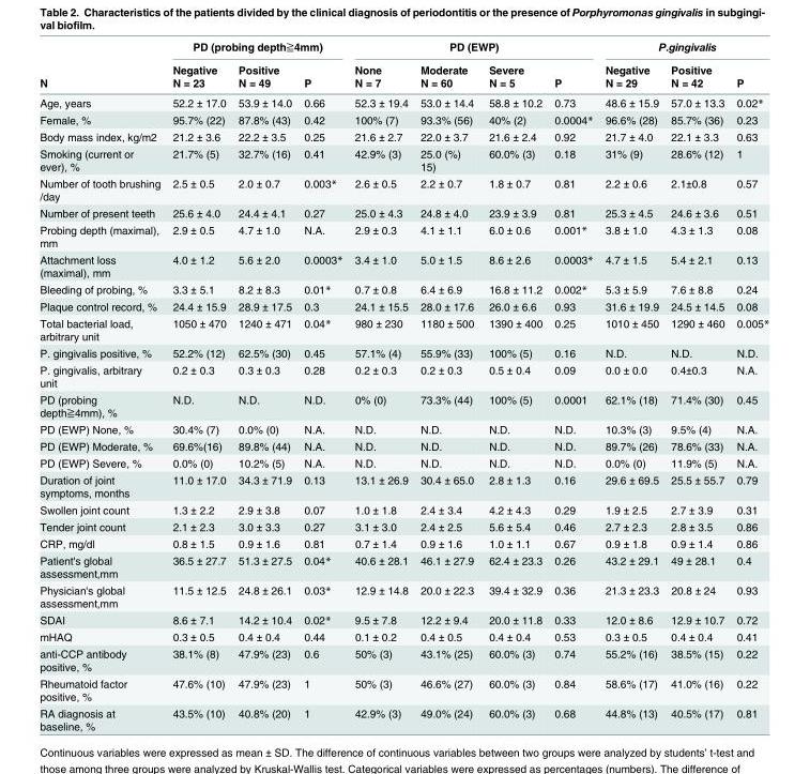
<table><thead><tr><td rowspan="3">N</td><td colspan="3">PD (probing depth≧4mm)</td><td colspan="4">PD (EWP)</td><td colspan="3">P.gingivalis</td></tr><tr><td rowspan="2">Negative N = 23</td><td rowspan="2">Positive N = 49</td><td rowspan="2">P</td><td rowspan="2">None N = 7</td><td rowspan="2">Moderate N = 60</td><td rowspan="2">Severe N = 5</td><td rowspan="2">P</td><td rowspan="2">Negative N = 29</td><td rowspan="2">Positive N = 42</td><td rowspan="2">P</td></tr><tr></tr></thead><tbody><tr><td>Age, years</td><td>52.2 ± 17.0</td><td>53.9 ± 14.0</td><td>0.66</td><td>52.3 ± 19.4</td><td>53.0 ± 14.4</td><td>58.8 ± 10.2</td><td>0.73</td><td>48.6 ± 15.9</td><td>57.0 ± 13.3</td><td>0.02*</td></tr><tr><td>Female, %</td><td>95.7% (22)</td><td>87.8% (43)</td><td>0.42</td><td>100% (7)</td><td>93.3% (56)</td><td>40% (2)</td><td>0.0004*</td><td>96.6% (28)</td><td>85.7% (36)</td><td>0.23</td></tr><tr><td>Body mass index, kg/m2</td><td>21.2 ± 3.6</td><td>22.2 ± 3.5</td><td>0.25</td><td>21.6 ± 2.7</td><td>22.0 ± 3.7</td><td>21.6 ± 2.4</td><td>0.92</td><td>21.7 ± 4.0</td><td>22.1 ± 3.3</td><td>0.63</td></tr><tr><td>Smoking (current or ever), %</td><td>21.7% (5)</td><td>32.7% (16)</td><td>0.41</td><td>42.9% (3)</td><td>25.0 (%) 15)</td><td>60.0% (3)</td><td>0.18</td><td>31% (9)</td><td>28.6% (12)</td><td>1</td></tr><tr><td>Number of tooth brushing /day</td><td>2.5 ± 0.5</td><td>2.0 ± 0.7</td><td>0.003*</td><td>2.6 ± 0.5</td><td>2.2 ± 0.7</td><td>1.8 ± 0.7</td><td>0.81</td><td>2.2 ± 0.6</td><td>2.1±0.8</td><td>0.57</td></tr><tr><td>Number of present teeth</td><td>25.6 ± 4.0</td><td>24.4 ± 4.1</td><td>0.27</td><td>25.0 ± 4.3</td><td>24.8 ± 4.0</td><td>23.9 ± 3.9</td><td>0.81</td><td>25.3 ± 4.5</td><td>24.6 ± 3.6</td><td>0.51</td></tr><tr><td>Probing depth (maximal), mm</td><td>2.9 ± 0.5</td><td>4.7 ± 1.0</td><td>N.A.</td><td>2.9 ± 0.3</td><td>4.1 ± 1.1</td><td>6.0 ± 0.6</td><td>0.001*</td><td>3.8 ± 1.0</td><td>4.3 ± 1.3</td><td>0.08</td></tr><tr><td>Attachment loss (maximal), mm</td><td>4.0 ± 1.2</td><td>5.6 ± 2.0</td><td>0.0003*</td><td>3.4 ± 1.0</td><td>5.0 ± 1.5</td><td>8.6 ± 2.6</td><td>0.0003*</td><td>4.7 ± 1.5</td><td>5.4 ± 2.1</td><td>0.13</td></tr><tr><td>Bleeding of probing, %</td><td>3.3 ± 5.1</td><td>8.2 ± 8.3</td><td>0.01*</td><td>0.7 ± 0.8</td><td>6.4 ± 6.9</td><td>16.8 ± 11.2</td><td>0.002*</td><td>5.3 ± 5.9</td><td>7.6 ± 8.8</td><td>0.24</td></tr><tr><td>Plaque control record, %</td><td>24.4 ± 15.9</td><td>28.9 ± 17.5</td><td>0.3</td><td>24.1 ± 15.5</td><td>28.0 ± 17.6</td><td>26.0 ± 6.6</td><td>0.93</td><td>31.6 ± 19.9</td><td>24.5 ± 14.5</td><td>0.08</td></tr><tr><td>Total bacterial load, arbitrary unit</td><td>1050 ± 470</td><td>1240 ± 471</td><td>0.04*</td><td>980 ± 230</td><td>1180 ± 500</td><td>1390 ± 400</td><td>0.25</td><td>1010 ± 450</td><td>1290 ± 460</td><td>0.005*</td></tr><tr><td>P. gingivalis positive, %</td><td>52.2% (12)</td><td>62.5% (30)</td><td>0.45</td><td>57.1% (4)</td><td>55.9% (33)</td><td>100% (5)</td><td>0.16</td><td>N.D.</td><td>N.D.</td><td>N.D.</td></tr><tr><td>P. gingivalis, arbitrary unit</td><td>0.2 ± 0.3</td><td>0.3 ± 0.3</td><td>0.28</td><td>0.2 ± 0.3</td><td>0.2 ± 0.3</td><td>0.5 ± 0.4</td><td>0.09</td><td>0.0 ± 0.0</td><td>0.4±0.3</td><td>N.A.</td></tr><tr><td>PD (probing depth≧4mm), %</td><td>N.D.</td><td>N.D.</td><td>N.D.</td><td>0% (0)</td><td>73.3% (44)</td><td>100% (5)</td><td>0.0001</td><td>62.1% (18)</td><td>71.4% (30)</td><td>0.45</td></tr><tr><td>PD (EWP) None, %</td><td>30.4% (7)</td><td>0.0% (0)</td><td>N.A.</td><td>N.D.</td><td>N.D.</td><td>N.D.</td><td>N.D.</td><td>10.3% (3)</td><td>9.5% (4)</td><td>N.A.</td></tr><tr><td>PD (EWP) Moderate, %</td><td>69.6%(16)</td><td>89.8% (44)</td><td>N.A.</td><td>N.D.</td><td>N.D.</td><td>N.D.</td><td>N.D.</td><td>89.7% (26)</td><td>78.6% (33)</td><td>N.A.</td></tr><tr><td>PD (EWP) Severe, %</td><td>0.0% (0)</td><td>10.2% (5)</td><td>N.A.</td><td>N.D.</td><td>N.D.</td><td>N.D.</td><td>N.D.</td><td>0.0% (0)</td><td>11.9% (5)</td><td>N.A.</td></tr><tr><td>Duration of joint symptoms, months</td><td>11.0 ± 17.0</td><td>34.3 ± 71.9</td><td>0.13</td><td>13.1 ± 26.9</td><td>30.4 ± 65.0</td><td>2.8 ± 1.3</td><td>0.16</td><td>29.6 ± 69.5</td><td>25.5 ± 55.7</td><td>0.79</td></tr><tr><td>Swollen joint count</td><td>1.3 ± 2.2</td><td>2.9 ± 3.8</td><td>0.07</td><td>1.0 ± 1.8</td><td>2.4 ± 3.4</td><td>4.2 ± 4.3</td><td>0.29</td><td>1.9 ± 2.5</td><td>2.7 ± 3.9</td><td>0.31</td></tr><tr><td>Tender joint count</td><td>2.1 ± 2.3</td><td>3.0 ± 3.3</td><td>0.27</td><td>3.1 ± 3.0</td><td>2.4 ± 2.5</td><td>5.6 ± 5.4</td><td>0.46</td><td>2.7 ± 2.3</td><td>2.8 ± 3.5</td><td>0.86</td></tr><tr><td>CRP, mg/dl</td><td>0.8 ± 1.5</td><td>0.9 ± 1.6</td><td>0.81</td><td>0.7 ± 1.4</td><td>0.9 ± 1.6</td><td>1.0 ± 1.1</td><td>0.67</td><td>0.9 ± 1.8</td><td>0.9 ± 1.4</td><td>0.86</td></tr><tr><td>Patient&#x27;s global assessment,mm</td><td>36.5 ± 27.7</td><td>51.3 ± 27.5</td><td>0.04*</td><td>40.6 ± 28.1</td><td>46.1 ± 27.9</td><td>62.4 ± 23.3</td><td>0.26</td><td>43.2 ± 29.1</td><td>49 ± 28.1</td><td>0.4</td></tr><tr><td>Physician&#x27;s global assessment,mm</td><td>11.5 ± 12.5</td><td>24.8 ± 26.1</td><td>0.03*</td><td>12.9 ± 14.8</td><td>20.0 ± 22.3</td><td>39.4 ± 32.9</td><td>0.36</td><td>21.3 ± 23.3</td><td>20.8 ± 24</td><td>0.93</td></tr><tr><td>SDAI</td><td>8.6 ± 7.1</td><td>14.2 ± 10.4</td><td>0.02*</td><td>9.5 ± 7.8</td><td>12.2 ± 9.4</td><td>20.0 ± 11.8</td><td>0.33</td><td>12.0 ± 8.6</td><td>12.9 ± 10.7</td><td>0.72</td></tr><tr><td>mHAQ</td><td>0.3 ± 0.5</td><td>0.4 ± 0.4</td><td>0.44</td><td>0.1 ± 0.2</td><td>0.4 ± 0.5</td><td>0.4 ± 0.4</td><td>0.53</td><td>0.3 ± 0.5</td><td>0.4 ± 0.4</td><td>0.41</td></tr><tr><td>anti-CCP antibody positive, %</td><td>38.1% (8)</td><td>47.9% (23)</td><td>0.6</td><td>50% (3)</td><td>43.1% (25)</td><td>60.0% (3)</td><td>0.74</td><td>55.2% (16)</td><td>38.5% (15)</td><td>0.22</td></tr><tr><td>Rheumatoid factor positive, %</td><td>47.6% (10)</td><td>47.9% (23)</td><td>1</td><td>50% (3)</td><td>46.6% (27)</td><td>60.0% (3)</td><td>0.84</td><td>58.6% (17)</td><td>41.0% (16)</td><td>0.22</td></tr><tr><td>RA diagnosis at baseline, %</td><td>43.5% (10)</td><td>40.8% (20)</td><td>1</td><td>42.9% (3)</td><td>49.0% (24)</td><td>60.0% (3)</td><td>0.68</td><td>44.8% (13)</td><td>40.5% (17)</td><td>0.81</td></tr></tbody></table>